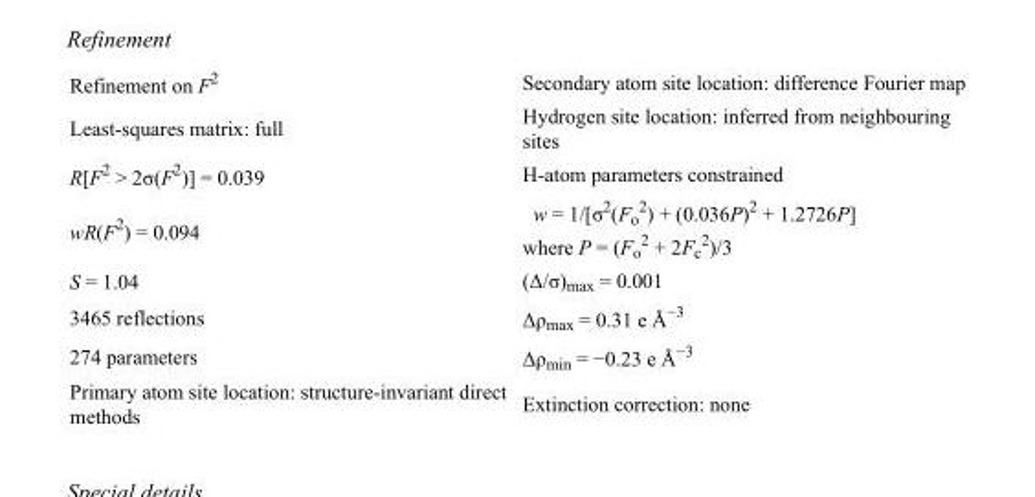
<table><tbody><tr><td>Refinement on F<sup>2</sup></td><td>Secondary atom site location: difference Fourier map</td></tr><tr><td>Least-squares matrix: full</td><td>Hydrogen site location: inferred from neighbouring sites</td></tr><tr><td>R[F<sup>2</sup> &gt; 2σ(F<sup>2</sup>)] = 0.039</td><td>H-atom parameters constrained</td></tr><tr><td>wR(F<sup>2</sup>) = 0.094</td><td>w = 1/[σ<sup>2</sup>(F<sub>o</sub> <sup>2</sup>) + (0.036P)<sup>2</sup> + 1.2726P] where P = (F<sub>o</sub> <sup>2</sup> + 2F<sub>c</sub> <sup>2</sup>)/3</td></tr><tr><td>S = 1.04</td><td>(Δ/σ)<sub>max</sub> = 0.001</td></tr><tr><td>3465 reflections</td><td>Δρ<sub>max</sub> = 0.31 e Å<sup>−3</sup></td></tr><tr><td>274 parameters</td><td>Δρ<sub>min</sub> = −0.23 e Å<sup>−3</sup></td></tr><tr><td>Primary atom site location: structure-invariant direct methods</td><td>Extinction correction: none</td></tr></tbody></table>